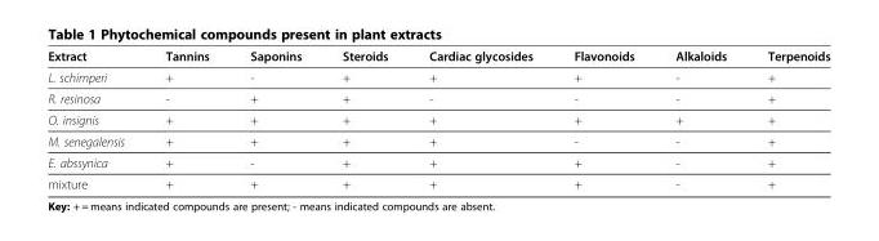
<table><thead><tr><td>Extract</td><td>Tannins</td><td>Saponins</td><td>Steroids</td><td>Cardiac glycosides</td><td>Flavonoids</td><td>Alkaloids</td><td>Terpenoids</td></tr></thead><tbody><tr><td>L. schimperi</td><td>+</td><td>-</td><td>+</td><td>+</td><td>+</td><td>-</td><td>+</td></tr><tr><td>R. resinosa</td><td>-</td><td>+</td><td>+</td><td>-</td><td>-</td><td>-</td><td>+</td></tr><tr><td>O. insignis</td><td>+</td><td>+</td><td>+</td><td>+</td><td>+</td><td>+</td><td>+</td></tr><tr><td>M. senegalensis</td><td>+</td><td>+</td><td>+</td><td>+</td><td>-</td><td>-</td><td>+</td></tr><tr><td>E. abssynica</td><td>+</td><td>-</td><td>+</td><td>+</td><td>+</td><td>-</td><td>+</td></tr><tr><td>mixture</td><td>+</td><td>+</td><td>+</td><td>+</td><td>+</td><td>-</td><td>+</td></tr></tbody></table>